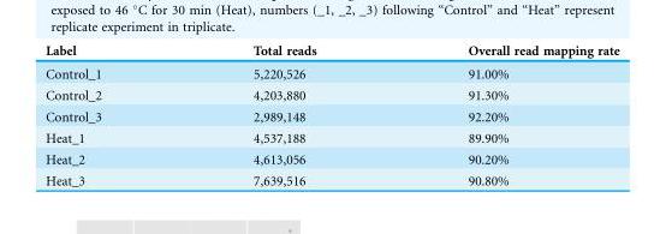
<table><thead><tr><td>Label</td><td>Total reads</td><td>Overall read mapping rate</td></tr></thead><tbody><tr><td>Control_1</td><td>5,220,526</td><td>91.00%</td></tr><tr><td>Control_2</td><td>4,203,880</td><td>91.30%</td></tr><tr><td>Control_3</td><td>2,989,148</td><td>92.20%</td></tr><tr><td>Heat_1</td><td>4,537,188</td><td>89.90%</td></tr><tr><td>Heat_2</td><td>4,613,056</td><td>90.20%</td></tr><tr><td>Heat_3</td><td>7,639,516</td><td>90.80%</td></tr></tbody></table>